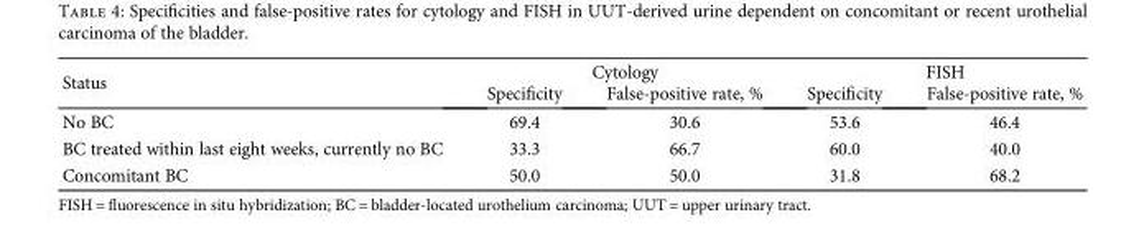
<table><thead><tr><td rowspan="2">Status</td><td colspan="2">Cytology</td><td colspan="2">FISH</td></tr><tr><td>Specificity</td><td>False-positive rate, %</td><td>Specificity</td><td>False-positive rate, %</td></tr></thead><tbody><tr><td>No BC</td><td>69.4</td><td>30.6</td><td>53.6</td><td>46.4</td></tr><tr><td>BC treated within last eight weeks, currently no BC</td><td>33.3</td><td>66.7</td><td>60.0</td><td>40.0</td></tr><tr><td>Concomitant BC</td><td>50.0</td><td>50.0</td><td>31.8</td><td>68.2</td></tr></tbody></table>